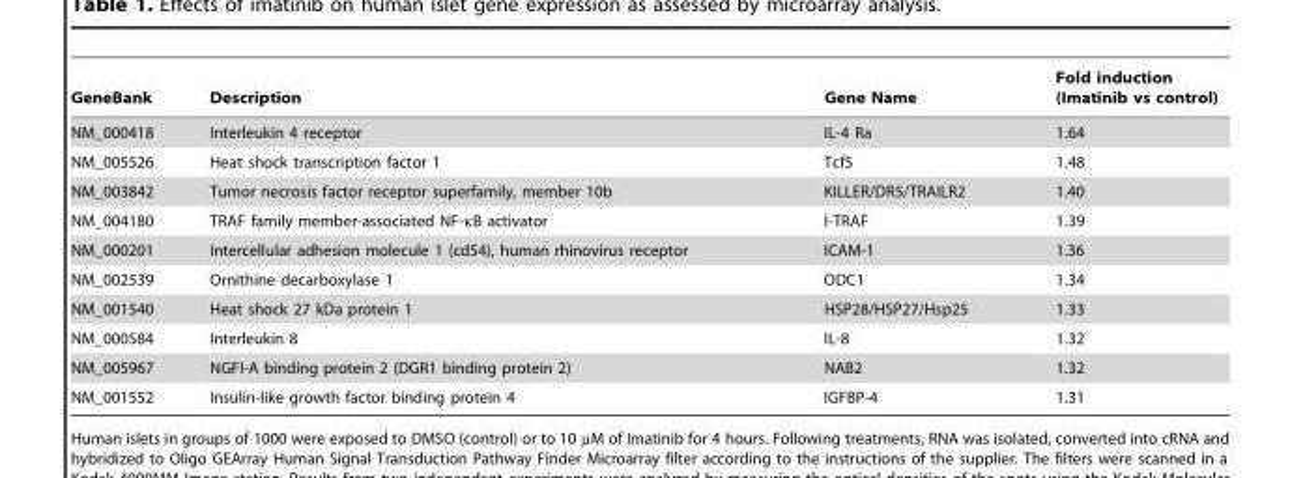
<table><thead><tr><td>GeneBank</td><td>Description</td><td>Gene Name</td><td>Fold induction (Imatinib vs control)</td></tr></thead><tbody><tr><td>NM_000418</td><td>Interleukin 4 receptor</td><td>IL-4 Ra</td><td>1.64</td></tr><tr><td>NM_005526</td><td>Heat shock transcription factor 1</td><td>Tcf5</td><td>1.48</td></tr><tr><td>NM_003842</td><td>Tumor necrosis factor receptor superfamily, member 10b</td><td>KILLER/DR5/TRAILR2</td><td>1.40</td></tr><tr><td>NM_004180</td><td>TRAF family member-associated NF-κB activator</td><td>I-TRAF</td><td>1.39</td></tr><tr><td>NM_000201</td><td>Intercellular adhesion molecule 1 (cd54), human rhinovirus receptor</td><td>ICAM-1</td><td>1.36</td></tr><tr><td>NM_002539</td><td>Ornithine decarboxylase 1</td><td>ODC1</td><td>1.34</td></tr><tr><td>NM_001540</td><td>Heat shock 27 kDa protein 1</td><td>HSP28/HSP27/Hsp25</td><td>1.33</td></tr><tr><td>NM_000584</td><td>Interleukin 8</td><td>IL-8</td><td>1.32</td></tr><tr><td>NM_005967</td><td>NGFI-A binding protein 2 (DGR1 binding protein 2)</td><td>NAB2</td><td>1.32</td></tr><tr><td>NM_001552</td><td>Insulin-like growth factor binding protein 4</td><td>IGFBP-4</td><td>1.31</td></tr></tbody></table>